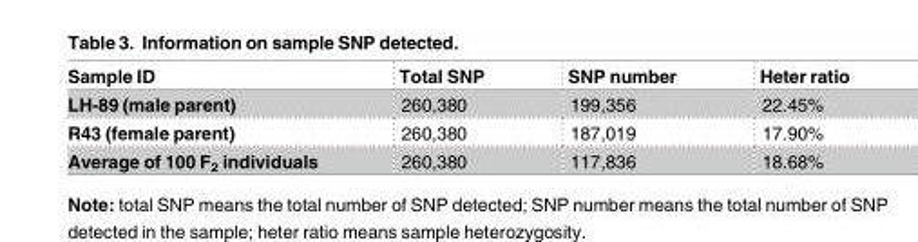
<table><thead><tr><td>Sample ID</td><td>Total SNP</td><td>SNP number</td><td>Heter ratio</td></tr></thead><tbody><tr><td>LH-89 (male parent)</td><td>260,380</td><td>199,356</td><td>22.45%</td></tr><tr><td>R43 (female parent)</td><td>260,380</td><td>187,019</td><td>17.90%</td></tr><tr><td>Average of 100 F<sub>2</sub> individuals</td><td>260,380</td><td>117,836</td><td>18.68%</td></tr></tbody></table>